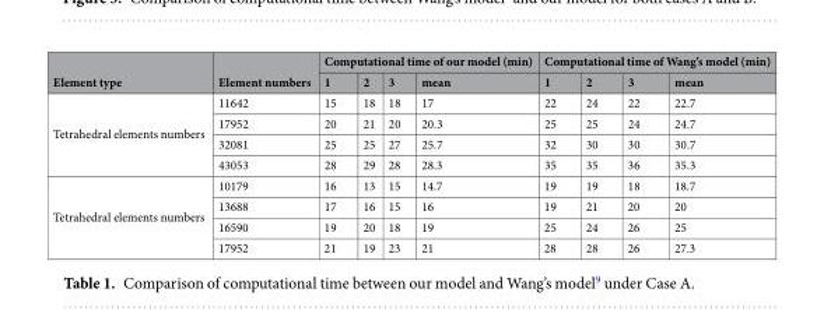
<table><thead><tr><td rowspan="2">Element type</td><td rowspan="2">Element numbers</td><td colspan="4">Computational time of our model (min)</td><td colspan="4">Computational time of Wang’s model (min)</td></tr><tr><td>1</td><td>2</td><td>3</td><td>mean</td><td>1</td><td>2</td><td>3</td><td>mean</td></tr></thead><tbody><tr><td rowspan="4">Tetrahedral elements numbers</td><td>11642</td><td>15</td><td>18</td><td>18</td><td>17</td><td>22</td><td>24</td><td>22</td><td>22.7</td></tr><tr><td>17952</td><td>20</td><td>21</td><td>20</td><td>20.3</td><td>25</td><td>25</td><td>24</td><td>24.7</td></tr><tr><td>32081</td><td>25</td><td>25</td><td>27</td><td>25.7</td><td>32</td><td>30</td><td>30</td><td>30.7</td></tr><tr><td>43053</td><td>28</td><td>29</td><td>28</td><td>28.3</td><td>35</td><td>35</td><td>36</td><td>35.3</td></tr><tr><td rowspan="4">Tetrahedral elements numbers</td><td>10179</td><td>16</td><td>13</td><td>15</td><td>14.7</td><td>19</td><td>19</td><td>18</td><td>18.7</td></tr><tr><td>13688</td><td>17</td><td>16</td><td>15</td><td>16</td><td>19</td><td>21</td><td>20</td><td>20</td></tr><tr><td>16590</td><td>19</td><td>20</td><td>18</td><td>19</td><td>25</td><td>24</td><td>26</td><td>25</td></tr><tr><td>17952</td><td>21</td><td>19</td><td>23</td><td>21</td><td>28</td><td>28</td><td>26</td><td>27.3</td></tr></tbody></table>